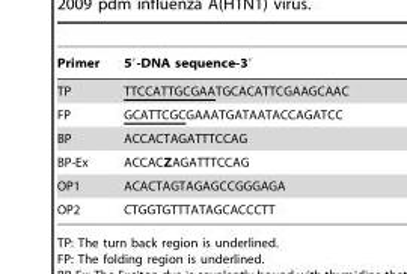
<table><thead><tr><td>Primer</td><td>5′-DNA sequence-3′</td></tr></thead><tbody><tr><td>TP</td><td>TTCCATTGCGAATGCACATTCGAAGCAAC</td></tr><tr><td>FP</td><td>GCATTCGCGAAATGATAATACCAGATCC</td></tr><tr><td>BP</td><td>ACCACTAGATTTCCAG</td></tr><tr><td>BP-Ex</td><td>ACCACZAGATTTCCAG</td></tr><tr><td>OP1</td><td>ACACTAGTAGAGCCGGGAGA</td></tr><tr><td>OP2</td><td>CTGGTGTTTATAGCACCCTT</td></tr></tbody></table>